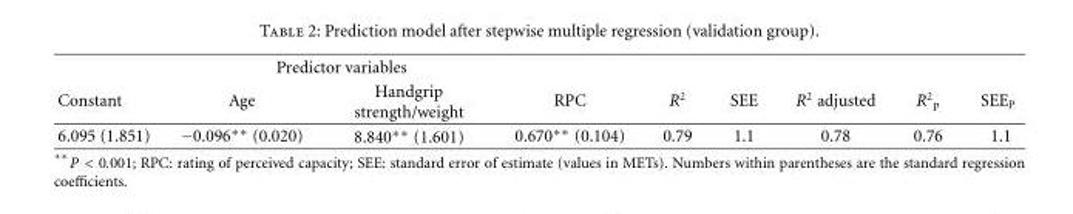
<table><thead><tr><td colspan="4">Predictor variables</td><td rowspan="2">R<sup>2</sup></td><td rowspan="2">SEE</td><td rowspan="2">R<sup>2</sup> adjusted</td><td rowspan="2">R<sup>2</sup><sub>p</sub></td><td rowspan="2">SEE<sub>P</sub></td></tr><tr><td>Constant</td><td>Age</td><td>Handgrip strength/weight</td><td>RPC</td></tr></thead><tbody><tr><td>6.095 (1.851)</td><td>−0.096∗∗ (0.020)</td><td>8.840∗∗ (1.601)</td><td>0.670∗∗ (0.104)</td><td>0.79</td><td>1.1</td><td>0.78</td><td>0.76</td><td>1.1</td></tr></tbody></table>